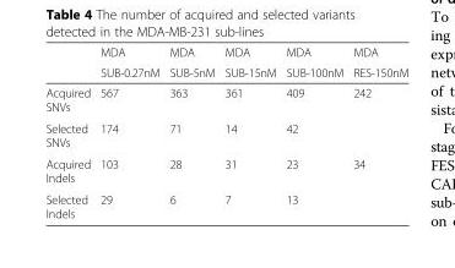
<table><thead><tr><td rowspan="2"></td><td rowspan="2">MDA SUB-0.27nM</td><td rowspan="2">MDA SUB-5nM</td><td rowspan="2">MDA SUB-15nM</td><td rowspan="2">MDA SUB-100nM</td><td rowspan="2">MDA RES-150nM</td></tr><tr></tr></thead><tbody><tr><td>Acquired SNVs</td><td>567</td><td>363</td><td>361</td><td>409</td><td>242</td></tr><tr><td>Selected SNVs</td><td>174</td><td>71</td><td>14</td><td>42</td><td></td></tr><tr><td>Acquired Indels</td><td>103</td><td>28</td><td>31</td><td>23</td><td>34</td></tr><tr><td>Selected Indels</td><td>29</td><td>6</td><td>7</td><td>13</td><td></td></tr></tbody></table>